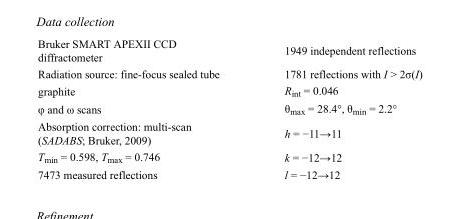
<table><tbody><tr><td>Bruker SMART APEXII CCD diffractometer</td><td>1949 independent reflections</td></tr><tr><td>Radiation source: fine-focus sealed tube</td><td>1781 reflections with I &gt; 2σ(I)</td></tr><tr><td>graphite</td><td>R<sub>int</sub> = 0.046</td></tr><tr><td>φ and ω scans</td><td>θ<sub>max</sub> = 28.4°, θ<sub>min</sub> = 2.2°</td></tr><tr><td>Absorption correction: multi-scan (SADABS; Bruker, 2009)</td><td>h = −11→11</td></tr><tr><td>T<sub>min</sub> = 0.598, T<sub>max</sub> = 0.746</td><td>k = −12→12</td></tr><tr><td>7473 measured reflections</td><td>l = −12→12</td></tr></tbody></table>